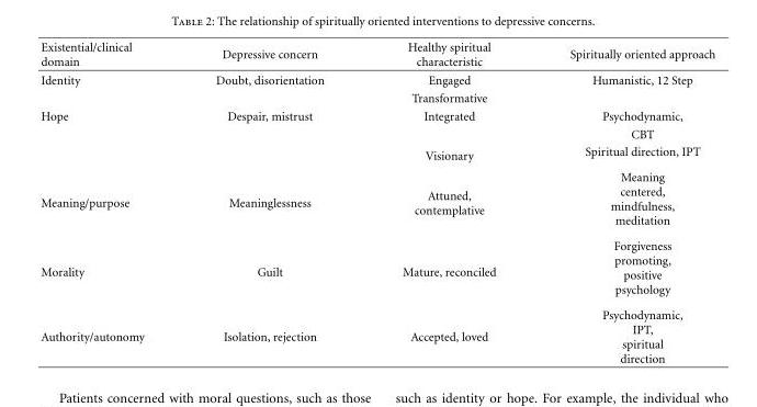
<table><thead><tr><td>Existential/clinical domain</td><td>Depressive concern</td><td>Healthy spiritual characteristic</td><td>Spiritually oriented approach</td></tr></thead><tbody><tr><td rowspan="2">Identity</td><td>Doubt, disorientation</td><td>Engaged</td><td>Humanistic, 12 Step</td></tr><tr><td></td><td>Transformative</td><td></td></tr><tr><td rowspan="3">Hope</td><td>Despair, mistrust</td><td>Integrated</td><td>Psychodynamic,</td></tr><tr><td></td><td></td><td>CBT</td></tr><tr><td></td><td>Visionary</td><td>Spiritual direction, IPT</td></tr><tr><td>Meaning/purpose</td><td>Meaninglessness</td><td>Attuned, contemplative</td><td>Meaning centered, mindfulness, meditation</td></tr><tr><td>Morality</td><td>Guilt</td><td>Mature, reconciled</td><td>Forgiveness promoting, positive psychology</td></tr><tr><td>Authority/autonomy</td><td>Isolation, rejection</td><td>Accepted, loved</td><td>Psychodynamic, IPT, spiritual direction</td></tr></tbody></table>